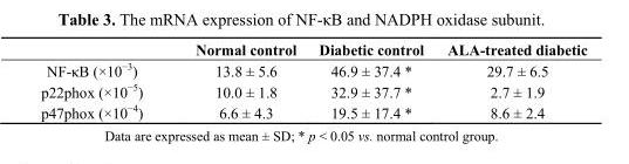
<table><thead><tr><td></td><td>Normal control</td><td>Diabetic control</td><td>ALA-treated diabetic</td></tr></thead><tbody><tr><td>NF-κB (×10<sup>−3</sup>)</td><td>13.8 ± 5.6</td><td>46.9 ± 37.4 *</td><td>29.7 ± 6.5</td></tr><tr><td>p22phox (×10<sup>−5</sup>)</td><td>10.0 ± 1.8</td><td>32.9 ± 37.7 *</td><td>2.7 ± 1.9</td></tr><tr><td>p47phox (×10<sup>−4</sup>)</td><td>6.6 ± 4.3</td><td>19.5 ± 17.4 *</td><td>8.6 ± 2.4</td></tr></tbody></table>